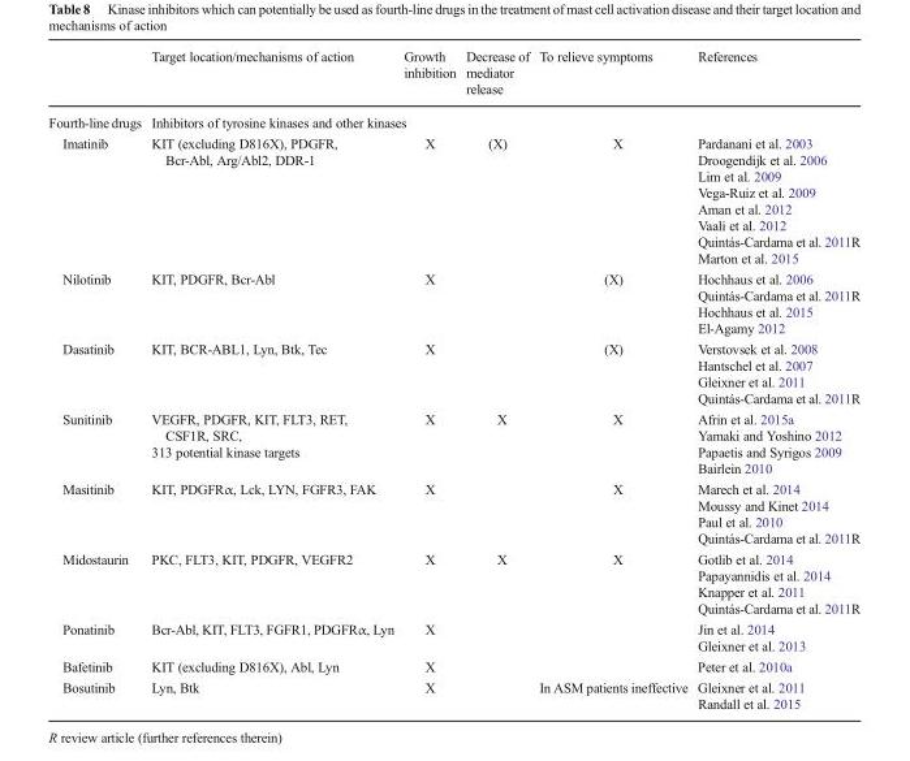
<table><thead><tr><td></td><td>Target location/mechanisms of action</td><td>Growth inhibition</td><td>Decrease of mediator release</td><td>To relieve symptoms</td><td>References</td></tr></thead><tbody><tr><td>Fourth-line drugs</td><td colspan="5">Inhibitors of tyrosine kinases and other kinases</td></tr><tr><td>Imatinib</td><td>KIT (excluding D816X), PDGFR, Bcr-Abl, Arg/Abl2, DDR-1</td><td>X</td><td>(X)</td><td>X</td><td>Pardanani et al. 2003 Droogendijk et al. 2006 Lim et al. 2009 Vega-Ruiz et al. 2009 Aman et al. 2012 Vaali et al. 2012 Quintás-Cardama et al. 2011R Marton et al. 2015</td></tr><tr><td>Nilotinib</td><td>KIT, PDGFR, Bcr-Abl</td><td>X</td><td></td><td>(X)</td><td>Hochhaus et al. 2006 Quintás-Cardama et al. 2011R Hochhaus et al. 2015 El-Agamy 2012</td></tr><tr><td>Dasatinib</td><td>KIT, BCR-ABL1, Lyn, Btk, Tec</td><td>X</td><td></td><td>(X)</td><td>Verstovsek et al. 2008 Hantschel et al. 2007 Gleixner et al. 2011 Quintás-Cardama et al. 2011R</td></tr><tr><td>Sunitinib</td><td>VEGFR, PDGFR, KIT, FLT3, RET, CSF1R, SRC, 313 potential kinase targets</td><td>X</td><td>X</td><td>X</td><td>Afrin et al. 2015a Yamaki and Yoshino 2012 Papaetis and Syrigos 2009 Bairlein 2010</td></tr><tr><td>Masitinib</td><td>KIT, PDGFRα, Lck, LYN, FGFR3, FAK</td><td>X</td><td></td><td>X</td><td>Marech et al. 2014 Moussy and Kinet 2014 Paul et al. 2010 Quintás-Cardama et al. 2011R</td></tr><tr><td>Midostaurin</td><td>PKC, FLT3, KIT, PDGFR, VEGFR2</td><td>X</td><td>X</td><td>X</td><td>Gotlib et al. 2014 Papayannidis et al. 2014 Knapper et al. 2011 Quintás-Cardama et al. 2011R</td></tr><tr><td>Ponatinib</td><td>Bcr-Abl, KIT, FLT3, FGFR1, PDGFRα, Lyn</td><td>X</td><td></td><td></td><td>Jin et al. 2014 Gleixner et al. 2013</td></tr><tr><td>Bafetinib</td><td>KIT (excluding D816X), Abl, Lyn</td><td>X</td><td></td><td></td><td>Peter et al. 2010a</td></tr><tr><td>Bosutinib</td><td>Lyn, Btk</td><td>X</td><td></td><td>In ASM patients ineffective</td><td>Gleixner et al. 2011 Randall et al. 2015</td></tr></tbody></table>